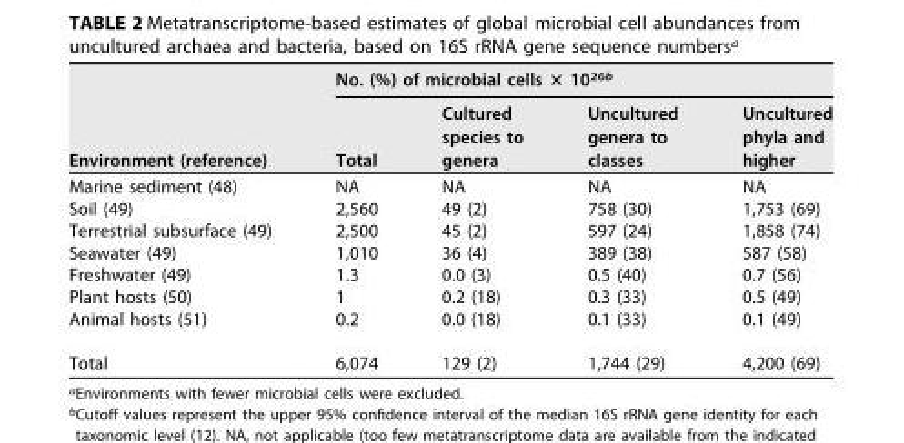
<table><thead><tr><td rowspan="2">Environment (reference)</td><td colspan="4">No. (%) of microbial cells × 10<sup>26b</sup></td></tr><tr><td>Total</td><td>Cultured species to genera</td><td>Uncultured genera to classes</td><td>Uncultured phyla and higher</td></tr></thead><tbody><tr><td>Marine sediment (48)</td><td>NA</td><td>NA</td><td>NA</td><td>NA</td></tr><tr><td>Soil (49)</td><td>2,560</td><td>49 (2)</td><td>758 (30)</td><td>1,753 (69)</td></tr><tr><td>Terrestrial subsurface (49)</td><td>2,500</td><td>45 (2)</td><td>597 (24)</td><td>1,858 (74)</td></tr><tr><td>Seawater (49)</td><td>1,010</td><td>36 (4)</td><td>389 (38)</td><td>587 (58)</td></tr><tr><td>Freshwater (49)</td><td>1.3</td><td>0.0 (3)</td><td>0.5 (40)</td><td>0.7 (56)</td></tr><tr><td>Plant hosts (50)</td><td>1</td><td>0.2 (18)</td><td>0.3 (33)</td><td>0.5 (49)</td></tr><tr><td>Animal hosts (51)</td><td>0.2</td><td>0.0 (18)</td><td>0.1 (33)</td><td>0.1 (49)</td></tr><tr><td>Total</td><td>6,074</td><td>129 (2)</td><td>1,744 (29)</td><td>4,200 (69)</td></tr></tbody></table>